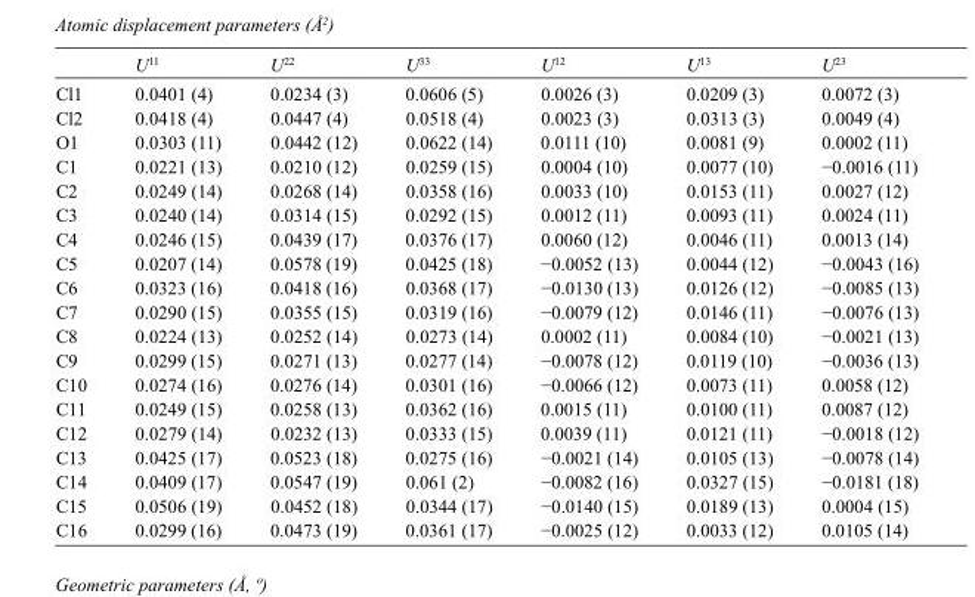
<table><thead><tr><td></td><td>U<sup>11</sup></td><td>U<sup>22</sup></td><td>U<sup>33</sup></td><td>U<sup>12</sup></td><td>U<sup>13</sup></td><td>U<sup>23</sup></td></tr></thead><tbody><tr><td>Cl1</td><td>0.0401 (4)</td><td>0.0234 (3)</td><td>0.0606 (5)</td><td>0.0026 (3)</td><td>0.0209 (3)</td><td>0.0072 (3)</td></tr><tr><td>Cl2</td><td>0.0418 (4)</td><td>0.0447 (4)</td><td>0.0518 (4)</td><td>0.0023 (3)</td><td>0.0313 (3)</td><td>0.0049 (4)</td></tr><tr><td>O1</td><td>0.0303 (11)</td><td>0.0442 (12)</td><td>0.0622 (14)</td><td>0.0111 (10)</td><td>0.0081 (9)</td><td>0.0002 (11)</td></tr><tr><td>C1</td><td>0.0221 (13)</td><td>0.0210 (12)</td><td>0.0259 (15)</td><td>0.0004 (10)</td><td>0.0077 (10)</td><td>−0.0016 (11)</td></tr><tr><td>C2</td><td>0.0249 (14)</td><td>0.0268 (14)</td><td>0.0358 (16)</td><td>0.0033 (10)</td><td>0.0153 (11)</td><td>0.0027 (12)</td></tr><tr><td>C3</td><td>0.0240 (14)</td><td>0.0314 (15)</td><td>0.0292 (15)</td><td>0.0012 (11)</td><td>0.0093 (11)</td><td>0.0024 (11)</td></tr><tr><td>C4</td><td>0.0246 (15)</td><td>0.0439 (17)</td><td>0.0376 (17)</td><td>0.0060 (12)</td><td>0.0046 (11)</td><td>0.0013 (14)</td></tr><tr><td>C5</td><td>0.0207 (14)</td><td>0.0578 (19)</td><td>0.0425 (18)</td><td>−0.0052 (13)</td><td>0.0044 (12)</td><td>−0.0043 (16)</td></tr><tr><td>C6</td><td>0.0323 (16)</td><td>0.0418 (16)</td><td>0.0368 (17)</td><td>−0.0130 (13)</td><td>0.0126 (12)</td><td>−0.0085 (13)</td></tr><tr><td>C7</td><td>0.0290 (15)</td><td>0.0355 (15)</td><td>0.0319 (16)</td><td>−0.0079 (12)</td><td>0.0146 (11)</td><td>−0.0076 (13)</td></tr><tr><td>C8</td><td>0.0224 (13)</td><td>0.0252 (14)</td><td>0.0273 (14)</td><td>0.0002 (11)</td><td>0.0084 (10)</td><td>−0.0021 (13)</td></tr><tr><td>C9</td><td>0.0299 (15)</td><td>0.0271 (13)</td><td>0.0277 (14)</td><td>−0.0078 (12)</td><td>0.0119 (10)</td><td>−0.0036 (13)</td></tr><tr><td>C10</td><td>0.0274 (16)</td><td>0.0276 (14)</td><td>0.0301 (16)</td><td>−0.0066 (12)</td><td>0.0073 (11)</td><td>0.0058 (12)</td></tr><tr><td>C11</td><td>0.0249 (15)</td><td>0.0258 (13)</td><td>0.0362 (16)</td><td>0.0015 (11)</td><td>0.0100 (11)</td><td>0.0087 (12)</td></tr><tr><td>C12</td><td>0.0279 (14)</td><td>0.0232 (13)</td><td>0.0333 (15)</td><td>0.0039 (11)</td><td>0.0121 (11)</td><td>−0.0018 (12)</td></tr><tr><td>C13</td><td>0.0425 (17)</td><td>0.0523 (18)</td><td>0.0275 (16)</td><td>−0.0021 (14)</td><td>0.0105 (13)</td><td>−0.0078 (14)</td></tr><tr><td>C14</td><td>0.0409 (17)</td><td>0.0547 (19)</td><td>0.061 (2)</td><td>−0.0082 (16)</td><td>0.0327 (15)</td><td>−0.0181 (18)</td></tr><tr><td>C15</td><td>0.0506 (19)</td><td>0.0452 (18)</td><td>0.0344 (17)</td><td>−0.0140 (15)</td><td>0.0189 (13)</td><td>0.0004 (15)</td></tr><tr><td>C16</td><td>0.0299 (16)</td><td>0.0473 (19)</td><td>0.0361 (17)</td><td>−0.0025 (12)</td><td>0.0033 (12)</td><td>0.0105 (14)</td></tr></tbody></table>